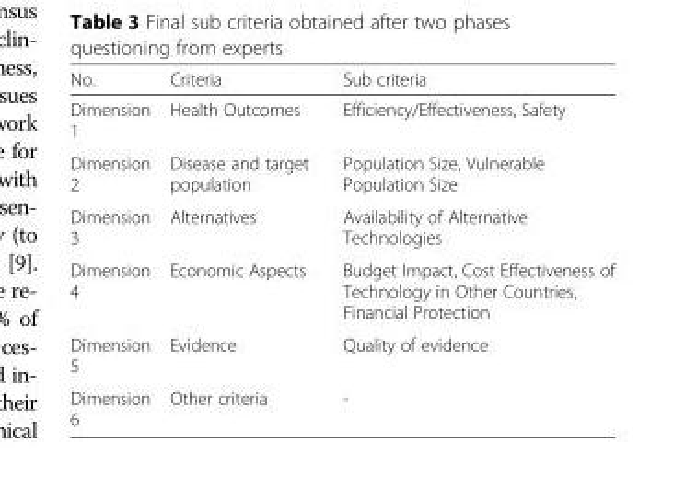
<table><thead><tr><td>No.</td><td>Criteria</td><td>Sub criteria</td></tr></thead><tbody><tr><td>Dimension 1</td><td>Health Outcomes</td><td>Efficiency/Effectiveness, Safety</td></tr><tr><td>Dimension 2</td><td>Disease and target population</td><td>Population Size, Vulnerable Population Size</td></tr><tr><td>Dimension 3</td><td>Alternatives</td><td>Availability of Alternative Technologies</td></tr><tr><td>Dimension 4</td><td>Economic Aspects</td><td>Budget Impact, Cost Effectiveness of Technology in Other Countries, Financial Protection</td></tr><tr><td>Dimension 5</td><td>Evidence</td><td>Quality of evidence</td></tr><tr><td>Dimension 6</td><td>Other criteria</td><td>-</td></tr></tbody></table>